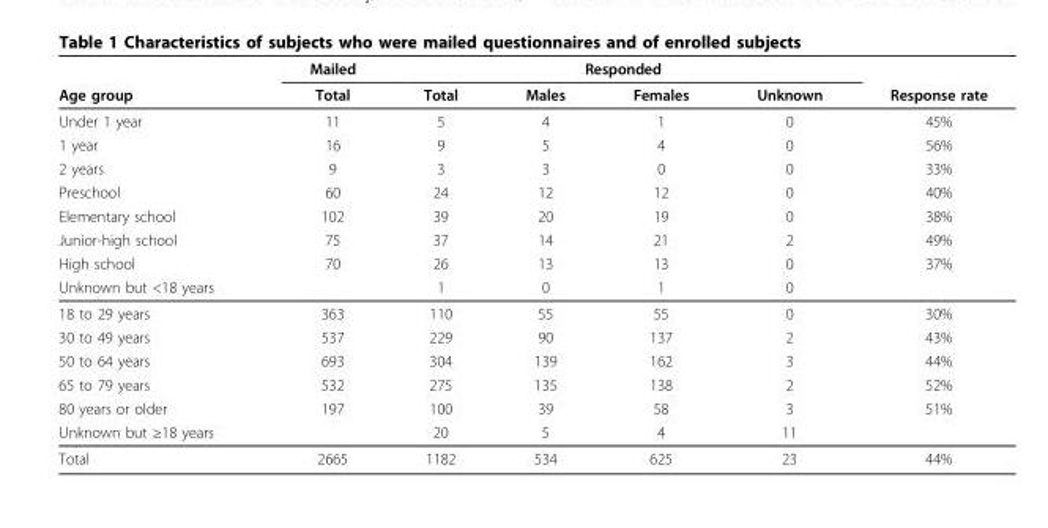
<table><thead><tr><td rowspan="2">Age group</td><td rowspan="2">Mailed Total</td><td colspan="4">Responded</td><td rowspan="2">Response rate</td></tr><tr><td>Total</td><td>Males</td><td>Females</td><td>Unknown</td></tr></thead><tbody><tr><td>Under 1 year</td><td>11</td><td>5</td><td>4</td><td>1</td><td>0</td><td>45%</td></tr><tr><td>1 year</td><td>16</td><td>9</td><td>5</td><td>4</td><td>0</td><td>56%</td></tr><tr><td>2 years</td><td>9</td><td>3</td><td>3</td><td>0</td><td>0</td><td>33%</td></tr><tr><td>Preschool</td><td>60</td><td>24</td><td>12</td><td>12</td><td>0</td><td>40%</td></tr><tr><td>Elementary school</td><td>102</td><td>39</td><td>20</td><td>19</td><td>0</td><td>38%</td></tr><tr><td>Junior-high school</td><td>75</td><td>37</td><td>14</td><td>21</td><td>2</td><td>49%</td></tr><tr><td>High school</td><td>70</td><td>26</td><td>13</td><td>13</td><td>0</td><td>37%</td></tr><tr><td>Unknown but &lt;18 years</td><td></td><td>1</td><td>0</td><td>1</td><td>0</td><td></td></tr><tr><td>18 to 29 years</td><td>363</td><td>110</td><td>55</td><td>55</td><td>0</td><td>30%</td></tr><tr><td>30 to 49 years</td><td>537</td><td>229</td><td>90</td><td>137</td><td>2</td><td>43%</td></tr><tr><td>50 to 64 years</td><td>693</td><td>304</td><td>139</td><td>162</td><td>3</td><td>44%</td></tr><tr><td>65 to 79 years</td><td>532</td><td>275</td><td>135</td><td>138</td><td>2</td><td>52%</td></tr><tr><td>80 years or older</td><td>197</td><td>100</td><td>39</td><td>58</td><td>3</td><td>51%</td></tr><tr><td>Unknown but ≥18 years</td><td></td><td>20</td><td>5</td><td>4</td><td>11</td><td></td></tr><tr><td>Total</td><td>2665</td><td>1182</td><td>534</td><td>625</td><td>23</td><td>44%</td></tr></tbody></table>